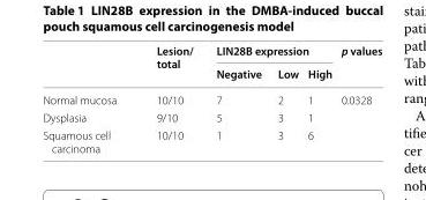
<table><thead><tr><td rowspan="2"></td><td rowspan="2">Lesion/ total</td><td colspan="3">LIN28B expression</td><td rowspan="2">p values</td></tr><tr><td>Negative</td><td>Low</td><td>High</td></tr></thead><tbody><tr><td>Normal mucosa</td><td>10/10</td><td>7</td><td>2</td><td>1</td><td>0.0328</td></tr><tr><td>Dysplasia</td><td>9/10</td><td>5</td><td>3</td><td>1</td><td></td></tr><tr><td>Squamous cell carcinoma</td><td>10/10</td><td>1</td><td>3</td><td>6</td><td></td></tr></tbody></table>